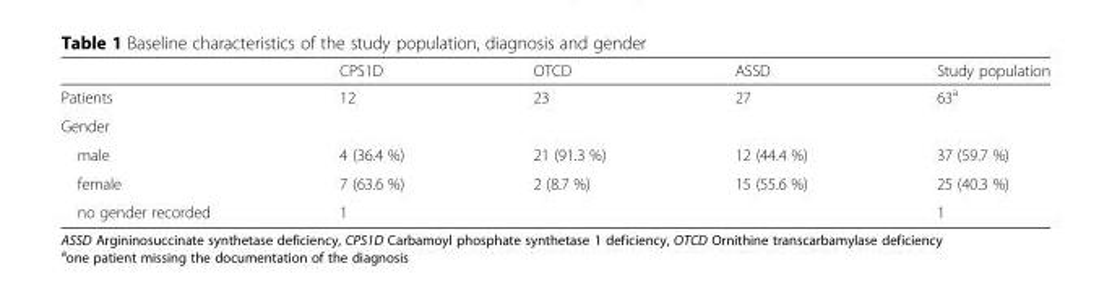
<table><thead><tr><td></td><td>CPS1D</td><td>OTCD</td><td>ASSD</td><td>Study population</td></tr></thead><tbody><tr><td>Patients</td><td>12</td><td>23</td><td>27</td><td>63<sup>a</sup></td></tr><tr><td colspan="5">Gender</td></tr><tr><td>male</td><td>4 (36.4 %)</td><td>21 (91.3 %)</td><td>12 (44.4 %)</td><td>37 (59.7 %)</td></tr><tr><td>female</td><td>7 (63.6 %)</td><td>2 (8.7 %)</td><td>15 (55.6 %)</td><td>25 (40.3 %)</td></tr><tr><td>no gender recorded</td><td>1</td><td></td><td></td><td>1</td></tr></tbody></table>